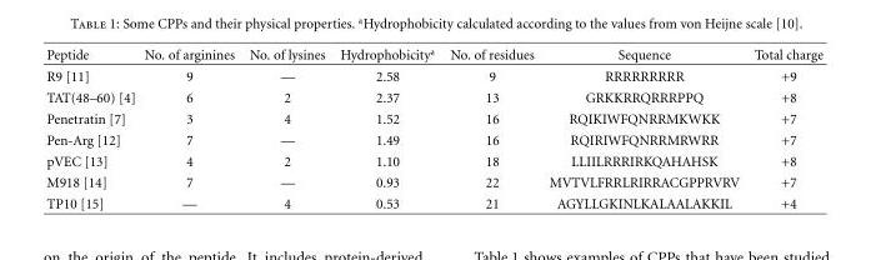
<table><thead><tr><td>Peptide</td><td>No. of arginines</td><td>No. of lysines</td><td>Hydrophobicity<sup>a</sup></td><td>No. of residues</td><td>Sequence</td><td>Total charge</td></tr></thead><tbody><tr><td>R9 [11]</td><td>9</td><td>—</td><td>2.58</td><td>9</td><td>RRRRRRRRR</td><td>+9</td></tr><tr><td>TAT(48–60) [4]</td><td>6</td><td>2</td><td>2.37</td><td>13</td><td>GRKKRRQRRRPPQ</td><td>+8</td></tr><tr><td>Penetratin [7]</td><td>3</td><td>4</td><td>1.52</td><td>16</td><td>RQIKIWFQNRRMKWKK</td><td>+7</td></tr><tr><td>Pen-Arg [12]</td><td>7</td><td>—</td><td>1.49</td><td>16</td><td>RQIRIWFQNRRMRWRR</td><td>+7</td></tr><tr><td>pVEC [13]</td><td>4</td><td>2</td><td>1.10</td><td>18</td><td>LLIILRRRIRKQAHAHSK</td><td>+8</td></tr><tr><td>M918 [14]</td><td>7</td><td>—</td><td>0.93</td><td>22</td><td>MVTVLFRRLRIRRACGPPRVRV</td><td>+7</td></tr><tr><td>TP10 [15]</td><td>—</td><td>4</td><td>0.53</td><td>21</td><td>AGYLLGKINLKALAALAKKIL</td><td>+4</td></tr></tbody></table>